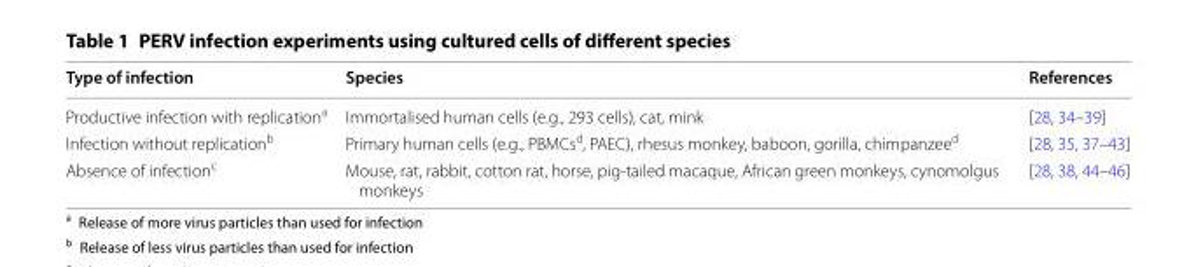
<table><thead><tr><td>Type of infection</td><td>Species</td><td>References</td></tr></thead><tbody><tr><td>Productive infection with replication<sup>a</sup></td><td>Immortalised human cells (e.g., 293 cells), cat, mink</td><td>[28, 34–39]</td></tr><tr><td>Infection without replication<sup>b</sup></td><td>Primary human cells (e.g., PBMCs<sup>d</sup>, PAEC), rhesus monkey, baboon, gorilla, chimpanzee<sup>d</sup></td><td>[28, 35, 37–43]</td></tr><tr><td>Absence of infection<sup>c</sup></td><td>Mouse, rat, rabbit, cotton rat, horse, pig-tailed macaque, African green monkeys, cynomolgus monkeys</td><td>[28, 38, 44–46]</td></tr></tbody></table>